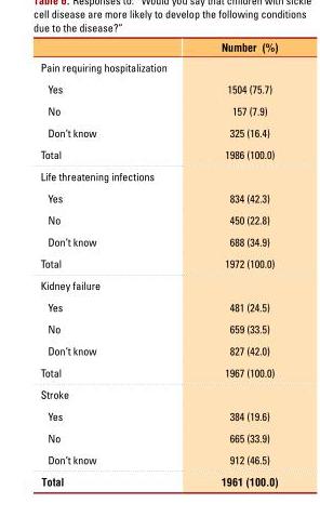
<table><thead><tr><td></td><td>Number (%)</td></tr></thead><tbody><tr><td colspan="2">Pain requiring hospitalization</td></tr><tr><td>Yes</td><td>1504 (75.7)</td></tr><tr><td>No</td><td>157 (7.9)</td></tr><tr><td>Don’t know</td><td>325 (16.4)</td></tr><tr><td>Total</td><td>1986 (100.0)</td></tr><tr><td colspan="2">Life threatening infections</td></tr><tr><td>Yes</td><td>834 (42.3)</td></tr><tr><td>No</td><td>450 (22.8)</td></tr><tr><td>Don’t know</td><td>688 (34.9)</td></tr><tr><td>Total</td><td>1972 (100.0)</td></tr><tr><td colspan="2">Kidney failure</td></tr><tr><td>Yes</td><td>481 (24.5)</td></tr><tr><td>No</td><td>659 (33.5)</td></tr><tr><td>Don’t know</td><td>827 (42.0)</td></tr><tr><td>Total</td><td>1967 (100.0)</td></tr><tr><td colspan="2">Stroke</td></tr><tr><td>Yes</td><td>384 (19.6)</td></tr><tr><td>No</td><td>665 (33.9)</td></tr><tr><td>Don’t know</td><td>912 (46.5)</td></tr><tr><td>Total</td><td>1961 (100.0)</td></tr></tbody></table>